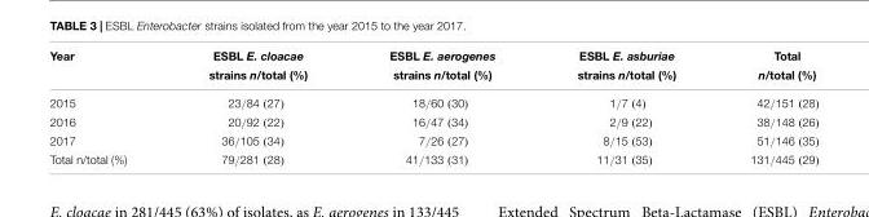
<table><thead><tr><td rowspan="2">Year</td><td rowspan="2">ESBL E. cloacae strains n/total (%)</td><td rowspan="2">ESBL E. aerogenes strains n/total (%)</td><td rowspan="2">ESBL E. asburiae strains n/total (%)</td><td rowspan="2">Total n/total (%)</td></tr><tr></tr></thead><tbody><tr><td>2015</td><td>23/84 (27)</td><td>18/60 (30)</td><td>1/7 (4)</td><td>42/151 (28)</td></tr><tr><td>2016</td><td>20/92 (22)</td><td>16/47 (34)</td><td>2/9 (22)</td><td>38/148 (26)</td></tr><tr><td>2017</td><td>36/105 (34)</td><td>7/26 (27)</td><td>8/15 (53)</td><td>51/146 (35)</td></tr><tr><td>Total n/total (%)</td><td>79/281 (28)</td><td>41/133 (31)</td><td>11/31 (35)</td><td>131/445 (29)</td></tr></tbody></table>